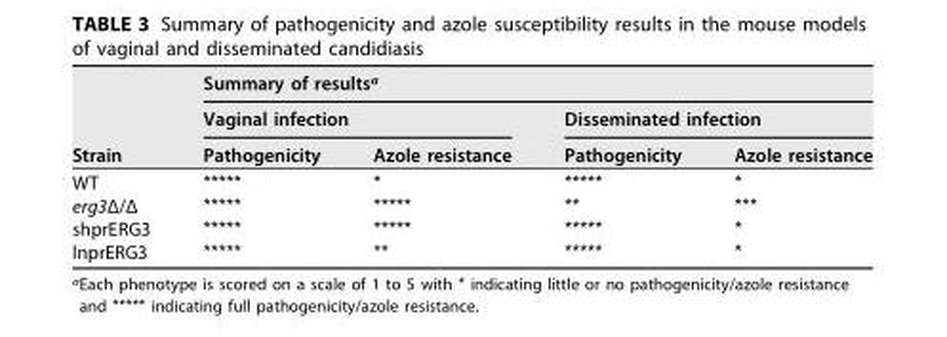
<table><thead><tr><td rowspan="3">Strain</td><td colspan="4">Summary of results<sup>a</sup></td></tr><tr><td colspan="2">Vaginal infection</td><td colspan="2">Disseminated infection</td></tr><tr><td>Pathogenicity</td><td>Azole resistance</td><td>Pathogenicity</td><td>Azole resistance</td></tr></thead><tbody><tr><td>WT</td><td>*****</td><td>*</td><td>*****</td><td>*</td></tr><tr><td>erg3Δ/Δ</td><td>*****</td><td>*****</td><td>**</td><td>***</td></tr><tr><td>shprERG3</td><td>*****</td><td>*****</td><td>*****</td><td>*</td></tr><tr><td>lnprERG3</td><td>*****</td><td>**</td><td>*****</td><td>*</td></tr></tbody></table>